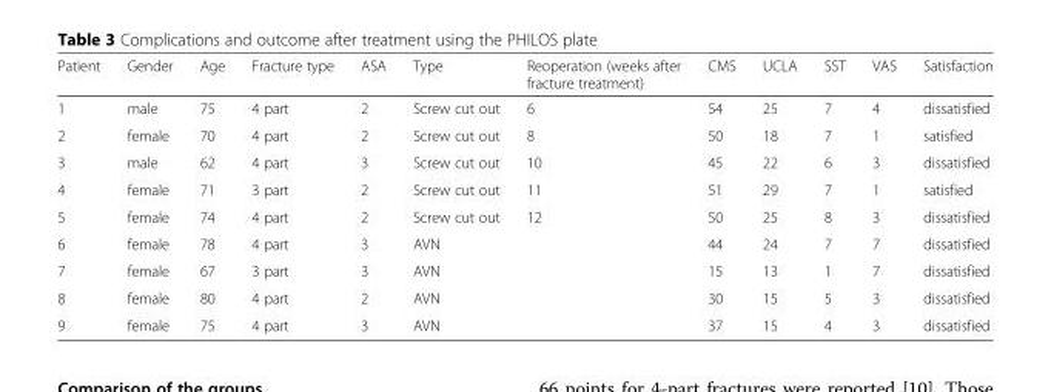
<table><thead><tr><td>Patient</td><td>Gender</td><td>Age</td><td>Fracture type</td><td>ASA</td><td>Type</td><td>Reoperation (weeks after fracture treatment)</td><td>CMS</td><td>UCLA</td><td>SST</td><td>VAS</td><td>Satisfaction</td></tr></thead><tbody><tr><td>1</td><td>male</td><td>75</td><td>4 part</td><td>2</td><td>Screw cut out</td><td>6</td><td>54</td><td>25</td><td>7</td><td>4</td><td>dissatisfied</td></tr><tr><td>2</td><td>female</td><td>70</td><td>4 part</td><td>2</td><td>Screw cut out</td><td>8</td><td>50</td><td>18</td><td>7</td><td>1</td><td>satisfied</td></tr><tr><td>3</td><td>male</td><td>62</td><td>4 part</td><td>3</td><td>Screw cut out</td><td>10</td><td>45</td><td>22</td><td>6</td><td>3</td><td>dissatisfied</td></tr><tr><td>4</td><td>female</td><td>71</td><td>3 part</td><td>2</td><td>Screw cut out</td><td>11</td><td>51</td><td>29</td><td>7</td><td>1</td><td>satisfied</td></tr><tr><td>5</td><td>female</td><td>74</td><td>4 part</td><td>2</td><td>Screw cut out</td><td>12</td><td>50</td><td>25</td><td>8</td><td>3</td><td>dissatisfied</td></tr><tr><td>6</td><td>female</td><td>78</td><td>4 part</td><td>3</td><td>AVN</td><td></td><td>44</td><td>24</td><td>7</td><td>7</td><td>dissatisfied</td></tr><tr><td>7</td><td>female</td><td>67</td><td>3 part</td><td>3</td><td>AVN</td><td></td><td>15</td><td>13</td><td>1</td><td>7</td><td>dissatisfied</td></tr><tr><td>8</td><td>female</td><td>80</td><td>4 part</td><td>2</td><td>AVN</td><td></td><td>30</td><td>15</td><td>5</td><td>3</td><td>dissatisfied</td></tr><tr><td>9</td><td>female</td><td>75</td><td>4 part</td><td>3</td><td>AVN</td><td></td><td>37</td><td>15</td><td>4</td><td>3</td><td>dissatisfied</td></tr></tbody></table>